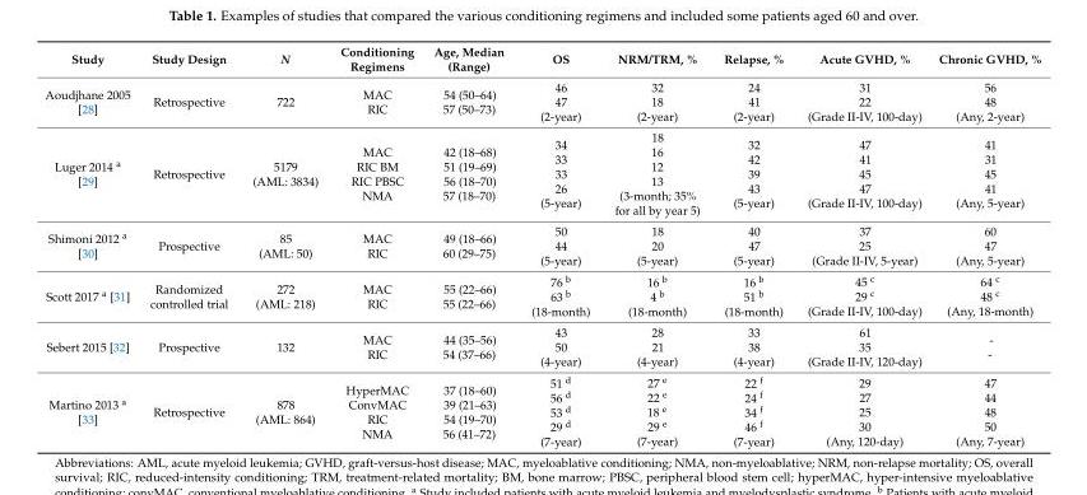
<table><thead><tr><td>Study</td><td>Study Design</td><td>N</td><td>Conditioning Regimens</td><td>Age, Median (Range)</td><td>OS</td><td>NRM/TRM, %</td><td>Relapse, %</td><td>Acute GVHD, %</td><td>Chronic GVHD, %</td></tr></thead><tbody><tr><td>Aoudjhane 2005 [28]</td><td>Retrospective</td><td>722</td><td>MAC RIC</td><td>54 (50–64) 57 (50–73)</td><td>46 47 (2-year)</td><td>32 18 (2-year)</td><td>24 41 (2-year)</td><td>31 22 (Grade II-IV, 100-day)</td><td>56 48 (Any, 2-year)</td></tr><tr><td>Luger 2014 <sup>a</sup> [29]</td><td>Retrospective</td><td>5179 (AML: 3834)</td><td>MAC RIC BM RIC PBSC NMA</td><td>42 (18–68) 51 (19–69) 56 (18–70) 57 (18–70)</td><td>34 33 33 26 (5-year)</td><td>18 16 12 13 (3-month; 35% for all by year 5)</td><td>32 42 39 43 (5-year)</td><td>47 41 45 47 (Grade II-IV, 100-day)</td><td>41 31 45 41 (Any, 5-year)</td></tr><tr><td>Shimoni 2012 <sup>a</sup> [30]</td><td>Prospective</td><td>85 (AML: 50)</td><td>MAC RIC</td><td>49 (18–66) 60 (29–75)</td><td>50 44 (5-year)</td><td>18 20 (5-year)</td><td>40 47 (5-year)</td><td>37 25 (Grade II-IV, 5-year)</td><td>60 47 (Any, 5-year)</td></tr><tr><td>Scott 2017 <sup>a</sup> [31]</td><td>Randomized controlled trial</td><td>272 (AML: 218)</td><td>MAC RIC</td><td>55 (22–66) 55 (22–66)</td><td>76 <sup>b</sup> 63 <sup>b</sup> (18-month)</td><td>16 <sup>b</sup> 4 <sup>b</sup> (18-month)</td><td>16 <sup>b</sup> 51 <sup>b</sup> (18-month)</td><td>45 <sup>c</sup> 29 <sup>c</sup> (Grade II-IV, 100-day)</td><td>64 <sup>c</sup> 48 <sup>c</sup> (Any, 18-month)</td></tr><tr><td>Sebert 2015 [32]</td><td>Prospective</td><td>132</td><td>MAC RIC</td><td>44 (35–56) 54 (37–66)</td><td>43 50 (4-year)</td><td>28 21 (4-year)</td><td>33 38 (4-year)</td><td>61 35 (Grade II-IV, 120-day)</td><td>- -</td></tr><tr><td>Martino 2013 <sup>a</sup> [33]</td><td>Retrospective</td><td>878 (AML: 864)</td><td>HyperMAC ConvMAC RIC NMA</td><td>37 (18–60) 39 (21–63) 54 (19–70) 56 (41–72)</td><td>51 <sup>d</sup> 56 <sup>d</sup> 53 <sup>d</sup> 29 <sup>d</sup> (7-year)</td><td>27 <sup>e</sup> 22 <sup>e</sup> 18 <sup>e</sup> 29 <sup>e</sup> (7-year)</td><td>22 <sup>f</sup> 24 <sup>f</sup> 34 <sup>f</sup> 46 <sup>f</sup> (7-year)</td><td>29 27 25 30 (Any, 120-day)</td><td>47 44 48 50 (Any, 7-year)</td></tr></tbody></table>